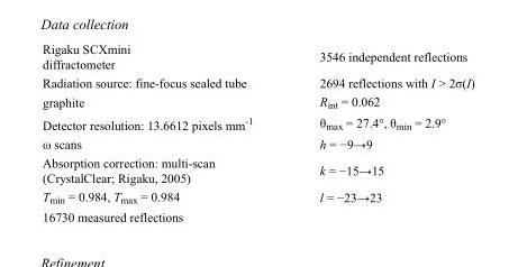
<table><tbody><tr><td>Rigaku SCXmini diffractometer</td><td>3546 independent reflections</td></tr><tr><td>Radiation source: fine-focus sealed tube</td><td>2694 reflections with I &gt; 2σ(I)</td></tr><tr><td>graphite</td><td>R<sub>int</sub> = 0.062</td></tr><tr><td>Detector resolution: 13.6612 pixels mm<sup>-1</sup></td><td>θ<sub>max</sub> = 27.4°, θ<sub>min</sub> = 2.9°</td></tr><tr><td>ω scans</td><td>h = −9→9</td></tr><tr><td>Absorption correction: multi-scan (CrystalClear; Rigaku, 2005)</td><td>k = −15→15</td></tr><tr><td>T<sub>min</sub> = 0.984, T<sub>max</sub> = 0.984</td><td>l = −23→23</td></tr><tr><td>16730 measured reflections</td><td></td></tr></tbody></table>